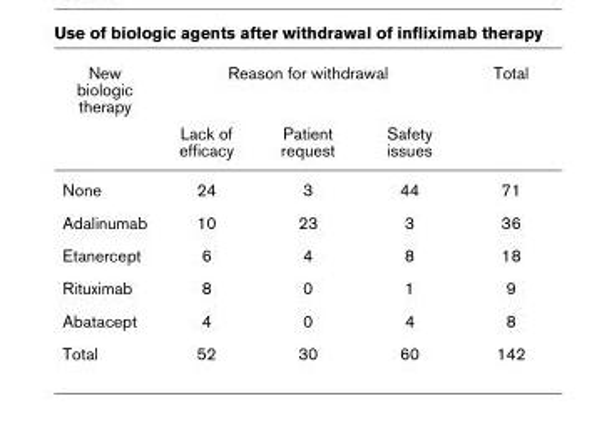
<table><thead><tr><td rowspan="2">New biologic therapy</td><td colspan="3">Reason for withdrawal</td><td rowspan="2">Total</td></tr><tr><td>Lack of efficacy</td><td>Patient request</td><td>Safety issues</td></tr></thead><tbody><tr><td>None</td><td>24</td><td>3</td><td>44</td><td>71</td></tr><tr><td>Adalinumab</td><td>10</td><td>23</td><td>3</td><td>36</td></tr><tr><td>Etanercept</td><td>6</td><td>4</td><td>8</td><td>18</td></tr><tr><td>Rituximab</td><td>8</td><td>0</td><td>1</td><td>9</td></tr><tr><td>Abatacept</td><td>4</td><td>0</td><td>4</td><td>8</td></tr><tr><td>Total</td><td>52</td><td>30</td><td>60</td><td>142</td></tr></tbody></table>